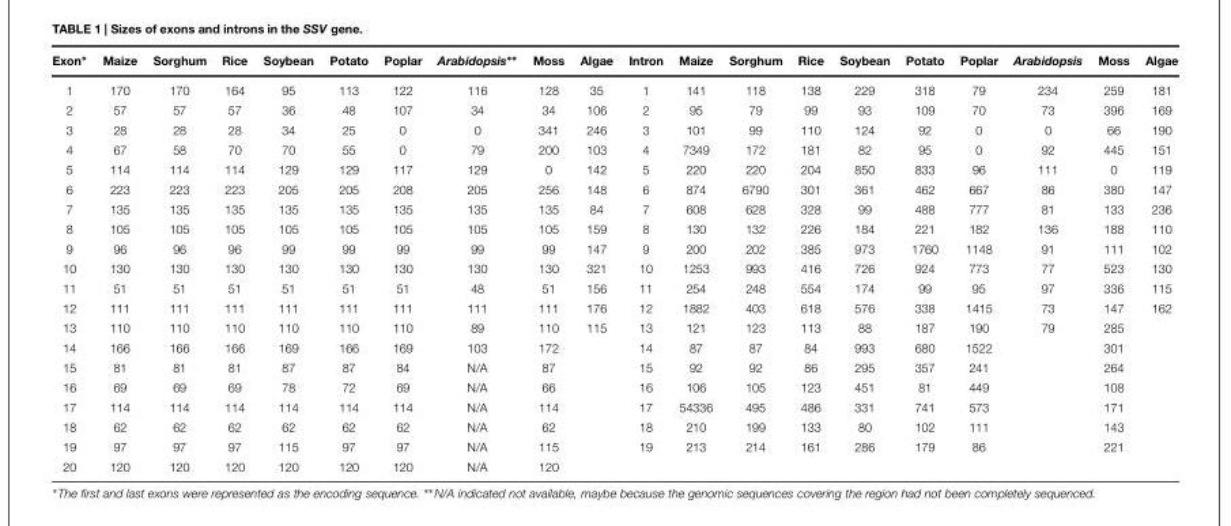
<table><thead><tr><td>Exon∗</td><td>Maize</td><td>Sorghum</td><td>Rice</td><td>Soybean</td><td>Potato</td><td>Poplar</td><td>Arabidopsis∗∗</td><td>Moss</td><td>Algae</td><td>Intron</td><td>Maize</td><td>Sorghum</td><td>Rice</td><td>Soybean</td><td>Potato</td><td>Poplar</td><td>Arabidopsis</td><td>Moss</td><td>Algae</td></tr></thead><tbody><tr><td>1</td><td>170</td><td>170</td><td>164</td><td>95</td><td>113</td><td>122</td><td>116</td><td>128</td><td>35</td><td>1</td><td>141</td><td>118</td><td>138</td><td>229</td><td>318</td><td>79</td><td>234</td><td>259</td><td>181</td></tr><tr><td>2</td><td>57</td><td>57</td><td>57</td><td>36</td><td>48</td><td>107</td><td>34</td><td>34</td><td>106</td><td>2</td><td>95</td><td>79</td><td>99</td><td>93</td><td>109</td><td>70</td><td>73</td><td>396</td><td>169</td></tr><tr><td>3</td><td>28</td><td>28</td><td>28</td><td>34</td><td>25</td><td>0</td><td>0</td><td>341</td><td>246</td><td>3</td><td>101</td><td>99</td><td>110</td><td>124</td><td>92</td><td>0</td><td>0</td><td>66</td><td>190</td></tr><tr><td>4</td><td>67</td><td>58</td><td>70</td><td>70</td><td>55</td><td>0</td><td>79</td><td>200</td><td>103</td><td>4</td><td>7349</td><td>172</td><td>181</td><td>82</td><td>95</td><td>0</td><td>92</td><td>445</td><td>151</td></tr><tr><td>5</td><td>114</td><td>114</td><td>114</td><td>129</td><td>129</td><td>117</td><td>129</td><td>0</td><td>142</td><td>5</td><td>220</td><td>220</td><td>204</td><td>850</td><td>833</td><td>96</td><td>111</td><td>0</td><td>119</td></tr><tr><td>6</td><td>223</td><td>223</td><td>223</td><td>205</td><td>205</td><td>208</td><td>205</td><td>256</td><td>148</td><td>6</td><td>874</td><td>6790</td><td>301</td><td>361</td><td>462</td><td>667</td><td>86</td><td>380</td><td>147</td></tr><tr><td>7</td><td>135</td><td>135</td><td>135</td><td>135</td><td>135</td><td>135</td><td>135</td><td>135</td><td>84</td><td>7</td><td>608</td><td>628</td><td>328</td><td>99</td><td>488</td><td>777</td><td>81</td><td>133</td><td>236</td></tr><tr><td>8</td><td>105</td><td>105</td><td>105</td><td>105</td><td>105</td><td>105</td><td>105</td><td>105</td><td>159</td><td>8</td><td>130</td><td>132</td><td>226</td><td>184</td><td>221</td><td>182</td><td>136</td><td>188</td><td>110</td></tr><tr><td>9</td><td>96</td><td>96</td><td>96</td><td>99</td><td>99</td><td>99</td><td>99</td><td>99</td><td>147</td><td>9</td><td>200</td><td>202</td><td>385</td><td>973</td><td>1760</td><td>1148</td><td>91</td><td>111</td><td>102</td></tr><tr><td>10</td><td>130</td><td>130</td><td>130</td><td>130</td><td>130</td><td>130</td><td>130</td><td>130</td><td>321</td><td>10</td><td>1253</td><td>993</td><td>416</td><td>726</td><td>924</td><td>773</td><td>77</td><td>523</td><td>130</td></tr><tr><td>11</td><td>51</td><td>51</td><td>51</td><td>51</td><td>51</td><td>51</td><td>48</td><td>51</td><td>156</td><td>11</td><td>254</td><td>248</td><td>554</td><td>174</td><td>99</td><td>95</td><td>97</td><td>336</td><td>115</td></tr><tr><td>12</td><td>111</td><td>111</td><td>111</td><td>111</td><td>111</td><td>111</td><td>111</td><td>111</td><td>176</td><td>12</td><td>1882</td><td>403</td><td>618</td><td>576</td><td>338</td><td>1415</td><td>73</td><td>147</td><td>162</td></tr><tr><td>13</td><td>110</td><td>110</td><td>110</td><td>110</td><td>110</td><td>110</td><td>89</td><td>110</td><td>115</td><td>13</td><td>121</td><td>123</td><td>113</td><td>88</td><td>187</td><td>190</td><td>79</td><td>285</td><td></td></tr><tr><td>14</td><td>166</td><td>166</td><td>166</td><td>169</td><td>166</td><td>169</td><td>103</td><td>172</td><td></td><td>14</td><td>87</td><td>87</td><td>84</td><td>993</td><td>680</td><td>1522</td><td></td><td>301</td><td></td></tr><tr><td>15</td><td>81</td><td>81</td><td>81</td><td>87</td><td>87</td><td>84</td><td>N/A</td><td>87</td><td></td><td>15</td><td>92</td><td>92</td><td>86</td><td>295</td><td>357</td><td>241</td><td></td><td>264</td><td></td></tr><tr><td>16</td><td>69</td><td>69</td><td>69</td><td>78</td><td>72</td><td>69</td><td>N/A</td><td>66</td><td></td><td>16</td><td>106</td><td>105</td><td>123</td><td>451</td><td>81</td><td>449</td><td></td><td>108</td><td></td></tr><tr><td>17</td><td>114</td><td>114</td><td>114</td><td>114</td><td>114</td><td>114</td><td>N/A</td><td>114</td><td></td><td>17</td><td>54336</td><td>495</td><td>486</td><td>331</td><td>741</td><td>573</td><td></td><td>171</td><td></td></tr><tr><td>18</td><td>62</td><td>62</td><td>62</td><td>62</td><td>62</td><td>62</td><td>N/A</td><td>62</td><td></td><td>18</td><td>210</td><td>199</td><td>133</td><td>80</td><td>102</td><td>111</td><td></td><td>143</td><td></td></tr><tr><td>19</td><td>97</td><td>97</td><td>97</td><td>115</td><td>97</td><td>97</td><td>N/A</td><td>115</td><td></td><td>19</td><td>213</td><td>214</td><td>161</td><td>286</td><td>179</td><td>86</td><td></td><td>221</td><td></td></tr><tr><td>20</td><td>120</td><td>120</td><td>120</td><td>120</td><td>120</td><td>120</td><td>N/A</td><td>120</td><td></td><td></td><td></td><td></td><td></td><td></td><td></td><td></td><td></td><td></td><td></td></tr></tbody></table>